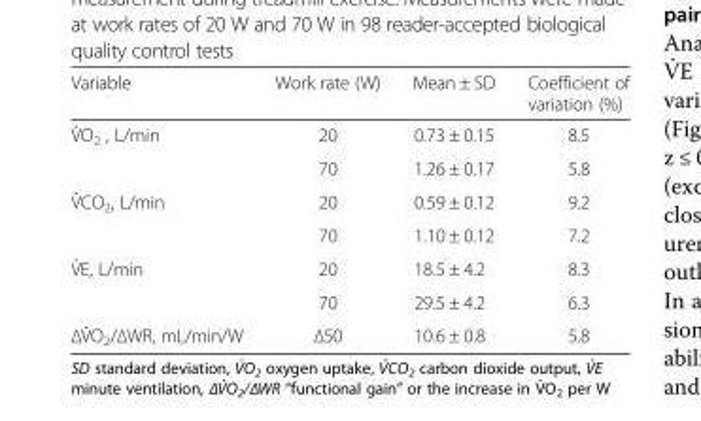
<table><thead><tr><td>Variable</td><td>Work rate (W)</td><td>Mean ± SD</td><td>Coefficient of variation (%)</td></tr></thead><tbody><tr><td rowspan="2">V̇O<sub>2</sub> , L/min</td><td>20</td><td>0.73 ± 0.15</td><td>8.5</td></tr><tr><td>70</td><td>1.26 ± 0.17</td><td>5.8</td></tr><tr><td rowspan="2">V̇CO<sub>2</sub>, L/min</td><td>20</td><td>0.59 ± 0.12</td><td>9.2</td></tr><tr><td>70</td><td>1.10 ± 0.12</td><td>7.2</td></tr><tr><td rowspan="2">V̇E, L/min</td><td>20</td><td>18.5 ± 4.2</td><td>8.3</td></tr><tr><td>70</td><td>29.5 ± 4.2</td><td>6.3</td></tr><tr><td>ΔV̇O2/ΔWR, mL/min/W</td><td>Δ50</td><td>10.6 ± 0.8</td><td>5.8</td></tr></tbody></table>